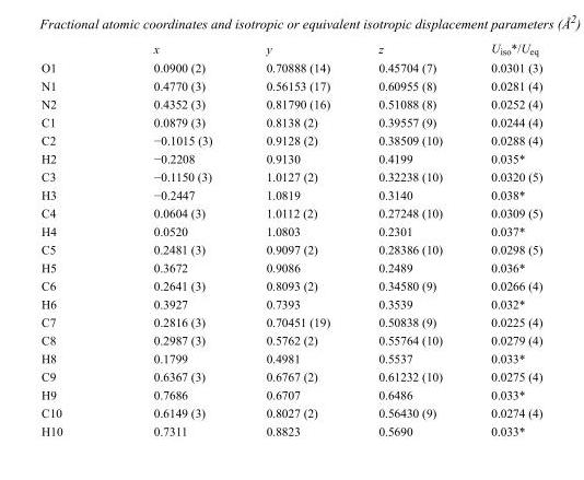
<table><thead><tr><td></td><td>x</td><td>y</td><td>z</td><td>U<sub>iso</sub>*/U<sub>eq</sub></td></tr></thead><tbody><tr><td>O1</td><td>0.0900 (2)</td><td>0.70888 (14)</td><td>0.45704 (7)</td><td>0.0301 (3)</td></tr><tr><td>N1</td><td>0.4770 (3)</td><td>0.56153 (17)</td><td>0.60955 (8)</td><td>0.0281 (4)</td></tr><tr><td>N2</td><td>0.4352 (3)</td><td>0.81790 (16)</td><td>0.51088 (8)</td><td>0.0252 (4)</td></tr><tr><td>C1</td><td>0.0879 (3)</td><td>0.8138 (2)</td><td>0.39557 (9)</td><td>0.0244 (4)</td></tr><tr><td>C2</td><td>−0.1015 (3)</td><td>0.9128 (2)</td><td>0.38509 (10)</td><td>0.0288 (4)</td></tr><tr><td>H2</td><td>−0.2208</td><td>0.9130</td><td>0.4199</td><td>0.035*</td></tr><tr><td>C3</td><td>−0.1150 (3)</td><td>1.0127 (2)</td><td>0.32238 (10)</td><td>0.0320 (5)</td></tr><tr><td>H3</td><td>−0.2447</td><td>1.0819</td><td>0.3140</td><td>0.038*</td></tr><tr><td>C4</td><td>0.0604 (3)</td><td>1.0112 (2)</td><td>0.27248 (10)</td><td>0.0309 (5)</td></tr><tr><td>H4</td><td>0.0520</td><td>1.0803</td><td>0.2301</td><td>0.037*</td></tr><tr><td>C5</td><td>0.2481 (3)</td><td>0.9097 (2)</td><td>0.28386 (10)</td><td>0.0298 (5)</td></tr><tr><td>H5</td><td>0.3672</td><td>0.9086</td><td>0.2489</td><td>0.036*</td></tr><tr><td>C6</td><td>0.2641 (3)</td><td>0.8093 (2)</td><td>0.34580 (9)</td><td>0.0266 (4)</td></tr><tr><td>H6</td><td>0.3927</td><td>0.7393</td><td>0.3539</td><td>0.032*</td></tr><tr><td>C7</td><td>0.2816 (3)</td><td>0.70451 (19)</td><td>0.50838 (9)</td><td>0.0225 (4)</td></tr><tr><td>C8</td><td>0.2987 (3)</td><td>0.5762 (2)</td><td>0.55764 (10)</td><td>0.0279 (4)</td></tr><tr><td>H8</td><td>0.1799</td><td>0.4981</td><td>0.5537</td><td>0.033*</td></tr><tr><td>C9</td><td>0.6367 (3)</td><td>0.6767 (2)</td><td>0.61232 (10)</td><td>0.0275 (4)</td></tr><tr><td>H9</td><td>0.7686</td><td>0.6707</td><td>0.6486</td><td>0.033*</td></tr><tr><td>C10</td><td>0.6149 (3)</td><td>0.8027 (2)</td><td>0.56430 (9)</td><td>0.0274 (4)</td></tr><tr><td>H10</td><td>0.7311</td><td>0.8823</td><td>0.5690</td><td>0.033*</td></tr></tbody></table>